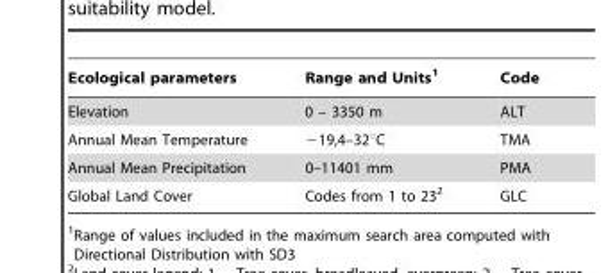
<table><thead><tr><td>Ecological parameters</td><td>Range and Units<sup>1</sup></td><td>Code</td></tr></thead><tbody><tr><td>Elevation</td><td>0 – 3350 m</td><td>ALT</td></tr><tr><td>Annual Mean Temperature</td><td>−19,4–32°C</td><td>TMA</td></tr><tr><td>Annual Mean Precipitation</td><td>0–11401 mm</td><td>PMA</td></tr><tr><td>Global Land Cover</td><td>Codes from 1 to 23<sup>2</sup></td><td>GLC</td></tr></tbody></table>